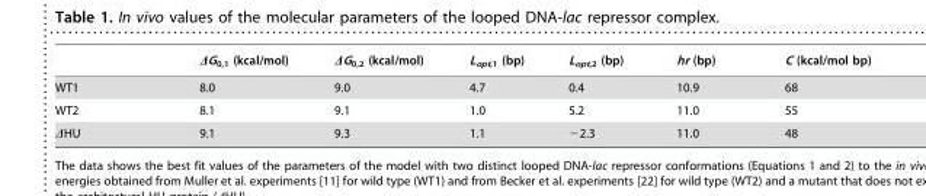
<table><thead><tr><td></td><td>ΔG<sub>0,1</sub> (kcal/mol)</td><td>ΔG<sub>0,2</sub> (kcal/mol)</td><td>L<sub>opt,1</sub> (bp)</td><td>L<sub>opt,2</sub> (bp)</td><td>hr (bp)</td><td>C (kcal/mol bp)</td></tr></thead><tbody><tr><td>WT1</td><td>8.0</td><td>9.0</td><td>4.7</td><td>0.4</td><td>10.9</td><td>68</td></tr><tr><td>WT2</td><td>8.1</td><td>9.1</td><td>1.0</td><td>5.2</td><td>11.0</td><td>55</td></tr><tr><td>ΔHU</td><td>9.1</td><td>9.3</td><td>1.1</td><td>−2.3</td><td>11.0</td><td>48</td></tr></tbody></table>